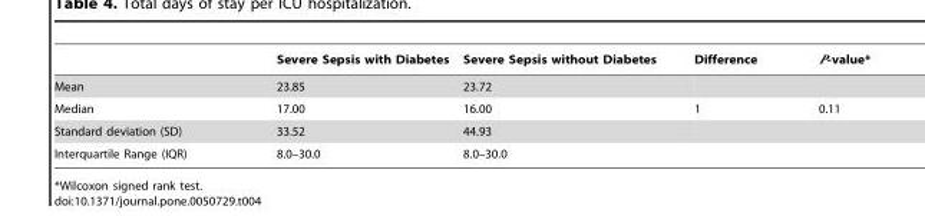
<table><thead><tr><td></td><td>Severe Sepsis with Diabetes</td><td>Severe Sepsis without Diabetes</td><td>Difference</td><td>Ρ-value*</td></tr></thead><tbody><tr><td>Mean</td><td>23.85</td><td>23.72</td><td></td><td></td></tr><tr><td>Median</td><td>17.00</td><td>16.00</td><td>1</td><td>0.11</td></tr><tr><td>Standard deviation (SD)</td><td>33.52</td><td>44.93</td><td></td><td></td></tr><tr><td>Interquartile Range (IQR)</td><td>8.0–30.0</td><td>8.0–30.0</td><td></td><td></td></tr></tbody></table>